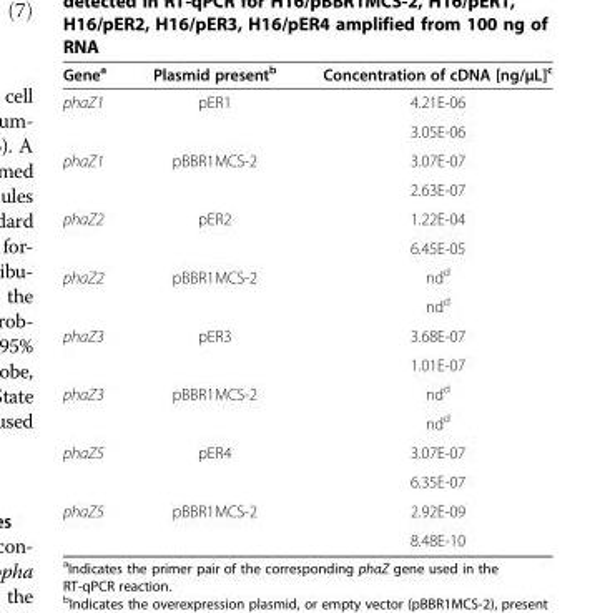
<table><thead><tr><td>Gene<sup>a</sup></td><td>Plasmid present<sup>b</sup></td><td>Concentration of cDNA [ng/μL]<sup>c</sup></td></tr></thead><tbody><tr><td rowspan="2">phaZ1</td><td rowspan="2">pER1</td><td>4.21E-06</td></tr><tr><td>3.05E-06</td></tr><tr><td rowspan="2">phaZ1</td><td rowspan="2">pBBR1MCS-2</td><td>3.07E-07</td></tr><tr><td>2.63E-07</td></tr><tr><td rowspan="2">phaZ2</td><td rowspan="2">pER2</td><td>1.22E-04</td></tr><tr><td>6.45E-05</td></tr><tr><td rowspan="2">phaZ2</td><td rowspan="2">pBBR1MCS-2</td><td>nd<sup>d</sup></td></tr><tr><td>nd<sup>d</sup></td></tr><tr><td rowspan="2">phaZ3</td><td rowspan="2">pER3</td><td>3.68E-07</td></tr><tr><td>1.01E-07</td></tr><tr><td rowspan="2">phaZ3</td><td rowspan="2">pBBR1MCS-2</td><td>nd<sup>d</sup></td></tr><tr><td>nd<sup>d</sup></td></tr><tr><td rowspan="2">phaZ5</td><td rowspan="2">pER4</td><td>3.07E-07</td></tr><tr><td>6.35E-07</td></tr><tr><td rowspan="2">phaZ5</td><td>pBBR1MCS-2</td><td>2.92E-09</td></tr><tr><td></td><td>8.48E-10</td></tr></tbody></table>